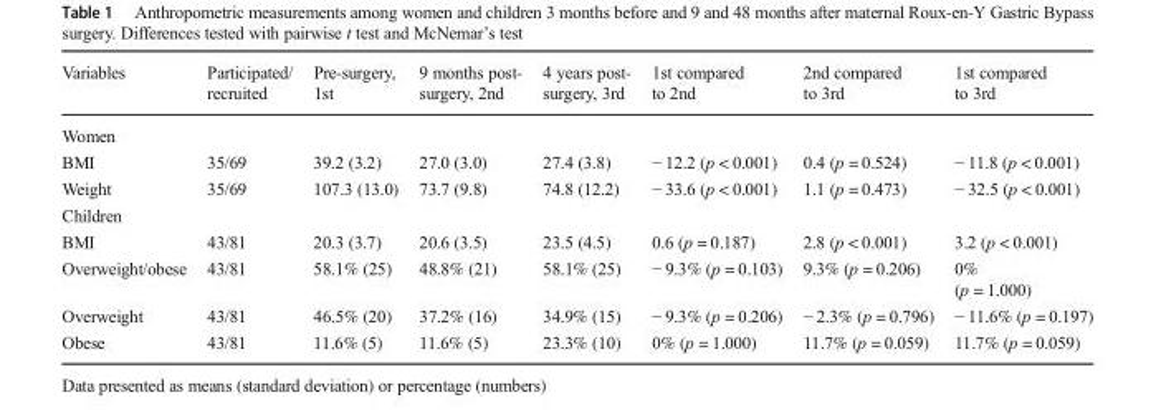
<table><thead><tr><td>Variables</td><td>Participated/ recruited</td><td>Pre-surgery, 1st</td><td>9 months post- surgery, 2nd</td><td>4 years post- surgery, 3rd</td><td>1st compared to 2nd</td><td>2nd compared to 3rd</td><td>1st compared to 3rd</td></tr></thead><tbody><tr><td colspan="8">Women</td></tr><tr><td>BMI</td><td>35/69</td><td>39.2 (3.2)</td><td>27.0 (3.0)</td><td>27.4 (3.8)</td><td>− 12.2 (p &lt; 0.001)</td><td>0.4 (p = 0.524)</td><td>− 11.8 (p &lt; 0.001)</td></tr><tr><td>Weight</td><td>35/69</td><td>107.3 (13.0)</td><td>73.7 (9.8)</td><td>74.8 (12.2)</td><td>− 33.6 (p &lt; 0.001)</td><td>1.1 (p = 0.473)</td><td>− 32.5 (p &lt; 0.001)</td></tr><tr><td colspan="8">Children</td></tr><tr><td>BMI</td><td>43/81</td><td>20.3 (3.7)</td><td>20.6 (3.5)</td><td>23.5 (4.5)</td><td>0.6 (p = 0.187)</td><td>2.8 (p &lt; 0.001)</td><td>3.2 (p &lt; 0.001)</td></tr><tr><td>Overweight/obese</td><td>43/81</td><td>58.1% (25)</td><td>48.8% (21)</td><td>58.1% (25)</td><td>− 9.3% (p = 0.103)</td><td>9.3% (p = 0.206)</td><td>0% (p = 1.000)</td></tr><tr><td>Overweight</td><td>43/81</td><td>46.5% (20)</td><td>37.2% (16)</td><td>34.9% (15)</td><td>− 9.3% (p = 0.206)</td><td>− 2.3% (p = 0.796)</td><td>− 11.6% (p = 0.197)</td></tr><tr><td>Obese</td><td>43/81</td><td>11.6% (5)</td><td>11.6% (5)</td><td>23.3% (10)</td><td>0% (p = 1.000)</td><td>11.7% (p = 0.059)</td><td>11.7% (p = 0.059)</td></tr></tbody></table>